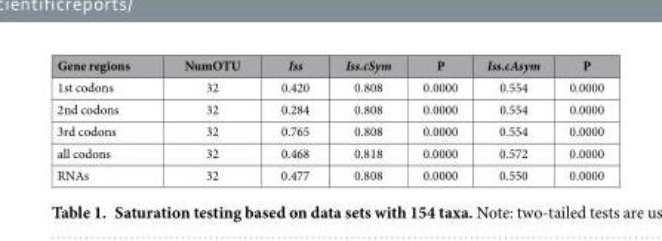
<table><thead><tr><td>Gene regions</td><td>NumOTU</td><td>Iss</td><td>Iss.cSym</td><td>P</td><td>Iss.cAsym</td><td>P</td></tr></thead><tbody><tr><td>1st codons</td><td>32</td><td>0.420</td><td>0.808</td><td>0.0000</td><td>0.554</td><td>0.0000</td></tr><tr><td>2nd codons</td><td>32</td><td>0.284</td><td>0.808</td><td>0.0000</td><td>0.554</td><td>0.0000</td></tr><tr><td>3rd codons</td><td>32</td><td>0.765</td><td>0.808</td><td>0.0000</td><td>0.554</td><td>0.0000</td></tr><tr><td>all codons</td><td>32</td><td>0.468</td><td>0.818</td><td>0.0000</td><td>0.572</td><td>0.0000</td></tr><tr><td>RNAs</td><td>32</td><td>0.477</td><td>0.808</td><td>0.0000</td><td>0.550</td><td>0.0000</td></tr></tbody></table>